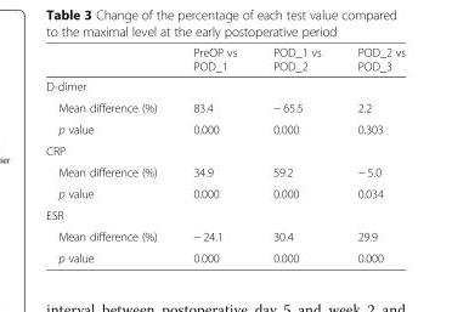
<table><thead><tr><td></td><td>PreOP vs POD_1</td><td>POD_1 vs POD_2</td><td>POD_2 vs POD_3</td></tr></thead><tbody><tr><td colspan="4">D-dimer</td></tr><tr><td>Mean difference (%)</td><td>83.4</td><td>− 65.5</td><td>2.2</td></tr><tr><td>p value</td><td>0.000</td><td>0.000</td><td>0.303</td></tr><tr><td colspan="4">CRP</td></tr><tr><td>Mean difference (%)</td><td>34.9</td><td>59.2</td><td>− 5.0</td></tr><tr><td>p value</td><td>0.000</td><td>0.000</td><td>0.034</td></tr><tr><td colspan="4">ESR</td></tr><tr><td>Mean difference (%)</td><td>− 24.1</td><td>30.4</td><td>29.9</td></tr><tr><td>p value</td><td>0.000</td><td>0.000</td><td>0.000</td></tr></tbody></table>